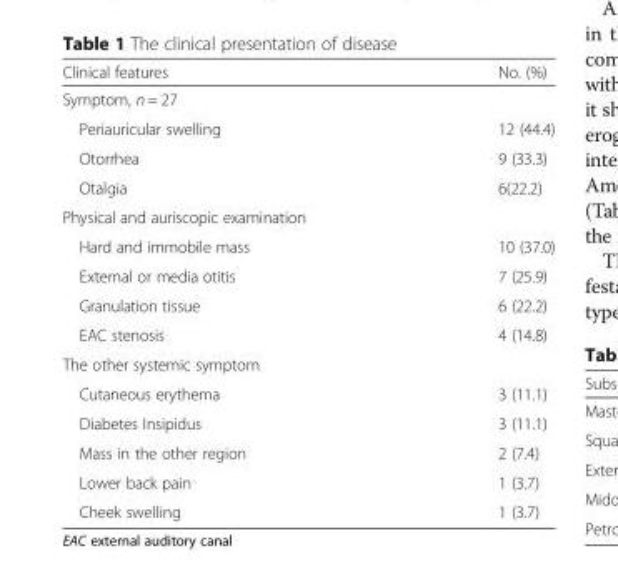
<table><thead><tr><td>Clinical features</td><td>No. (%)</td></tr></thead><tbody><tr><td colspan="2">Symptom, n = 27</td></tr><tr><td>Periauricular swelling</td><td>12 (44.4)</td></tr><tr><td>Otorrhea</td><td>9 (33.3)</td></tr><tr><td>Otalgia</td><td>6(22.2)</td></tr><tr><td colspan="2">Physical and auriscopic examination</td></tr><tr><td>Hard and immobile mass</td><td>10 (37.0)</td></tr><tr><td>External or media otitis</td><td>7 (25.9)</td></tr><tr><td>Granulation tissue</td><td>6 (22.2)</td></tr><tr><td>EAC stenosis</td><td>4 (14.8)</td></tr><tr><td colspan="2">The other systemic symptom</td></tr><tr><td>Cutaneous erythema</td><td>3 (11.1)</td></tr><tr><td>Diabetes Insipidus</td><td>3 (11.1)</td></tr><tr><td>Mass in the other region</td><td>2 (7.4)</td></tr><tr><td>Lower back pain</td><td>1 (3.7)</td></tr><tr><td>Cheek swelling</td><td>1 (3.7)</td></tr></tbody></table>